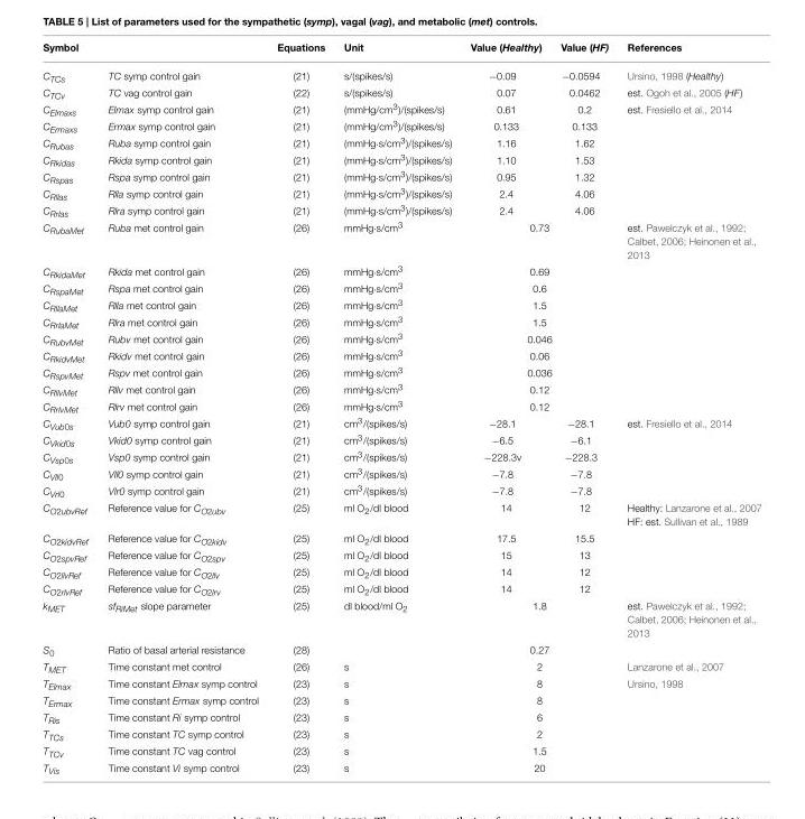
<table><thead><tr><td>Symbol</td><td></td><td>Equations</td><td>Unit</td><td>Value (Healthy)</td><td>Value (HF)</td><td>References</td></tr></thead><tbody><tr><td>CTCs</td><td>TC symp control gain</td><td>(21)</td><td>s/(spikes/s)</td><td>−0.09</td><td>−0.0594</td><td>Ursino, 1998 (Healthy)</td></tr><tr><td>CTCv</td><td>TC vag control gain</td><td>(22)</td><td>s/(spikes/s)</td><td>0.07</td><td>0.0462</td><td>est. Ogoh et al., 2005 (HF)</td></tr><tr><td>CElmaxs</td><td>Elmax symp control gain</td><td>(21)</td><td>(mmHg/cm<sup>3</sup>)/(spikes/s)</td><td>0.61</td><td>0.2</td><td>est. Fresiello et al., 2014</td></tr><tr><td>CErmaxs</td><td>Ermax symp control gain</td><td>(21)</td><td>(mmHg/cm<sup>3</sup>)/(spikes/s)</td><td>0.133</td><td>0.133</td><td></td></tr><tr><td>CRubas</td><td>Ruba symp control gain</td><td>(21)</td><td>(mmHg·s/cm<sup>3</sup>)/(spikes/s)</td><td>1.16</td><td>1.62</td><td></td></tr><tr><td>CRkidas</td><td>Rkida symp control gain</td><td>(21)</td><td>(mmHg·s/cm<sup>3</sup>)/(spikes/s)</td><td>1.10</td><td>1.53</td><td></td></tr><tr><td>CRspas</td><td>Rspa symp control gain</td><td>(21)</td><td>(mmHg·s/cm<sup>3</sup>)/(spikes/s)</td><td>0.95</td><td>1.32</td><td></td></tr><tr><td>CRllas</td><td>Rlla symp control gain</td><td>(21)</td><td>(mmHg·s/cm<sup>3</sup>)/(spikes/s)</td><td>2.4</td><td>4.06</td><td></td></tr><tr><td>CRrlas</td><td>Rlra symp control gain</td><td>(21)</td><td>(mmHg·s/cm<sup>3</sup>)/(spikes/s)</td><td>2.4</td><td>4.06</td><td></td></tr><tr><td>CRubaMet</td><td>Ruba met control gain</td><td>(26)</td><td>mmHg·s/cm<sup>3</sup></td><td colspan="2">0.73</td><td>est. Pawelczyk et al., 1992; Calbet, 2006; Heinonen et al., 2013</td></tr><tr><td>CRkidaMet</td><td>Rkida met control gain</td><td>(26)</td><td>mmHg·s/cm<sup>3</sup></td><td colspan="2">0.69</td><td></td></tr><tr><td>CRspaMet</td><td>Rspa met control gain</td><td>(26)</td><td>mmHg·s/cm<sup>3</sup></td><td colspan="2">0.6</td><td></td></tr><tr><td>CRllaMet</td><td>Rlla met control gain</td><td>(26)</td><td>mmHg·s/cm<sup>3</sup></td><td colspan="2">1.5</td><td></td></tr><tr><td>CRrlaMet</td><td>Rlra met control gain</td><td>(26)</td><td>mmHg·s/cm<sup>3</sup></td><td colspan="2">1.5</td><td></td></tr><tr><td>CRubvMet</td><td>Rubv met control gain</td><td>(26)</td><td>mmHg·s/cm<sup>3</sup></td><td colspan="2">0.046</td><td></td></tr><tr><td>CRkidvMet</td><td>Rkidv met control gain</td><td>(26)</td><td>mmHg·s/cm<sup>3</sup></td><td colspan="2">0.06</td><td></td></tr><tr><td>CRspvMet</td><td>Rspv met control gain</td><td>(26)</td><td>mmHg·s/cm<sup>3</sup></td><td colspan="2">0.036</td><td></td></tr><tr><td>CRllvMet</td><td>Rllv met control gain</td><td>(26)</td><td>mmHg·s/cm<sup>3</sup></td><td colspan="2">0.12</td><td></td></tr><tr><td>CRrlvMet</td><td>Rlrv met control gain</td><td>(26)</td><td>mmHg·s/cm<sup>3</sup></td><td colspan="2">0.12</td><td></td></tr><tr><td>CVub0s</td><td>Vub0 symp control gain</td><td>(21)</td><td>cm<sup>3</sup>/(spikes/s)</td><td>−28.1</td><td>−28.1</td><td>est. Fresiello et al., 2014</td></tr><tr><td>CVkid0s</td><td>Vkid0 symp control gain</td><td>(21)</td><td>cm<sup>3</sup>/(spikes/s)</td><td>−6.5</td><td>−6.1</td><td></td></tr><tr><td>CVsp0s</td><td>Vsp0 symp control gain</td><td>(21)</td><td>cm<sup>3</sup>/(spikes/s)</td><td>−228.3v</td><td>−228.3</td><td></td></tr><tr><td>CVll0</td><td>Vll0 symp control gain</td><td>(21)</td><td>cm<sup>3</sup>/(spikes/s)</td><td>−7.8</td><td>−7.8</td><td></td></tr><tr><td>CVrl0</td><td>Vlr0 symp control gain</td><td>(21)</td><td>cm<sup>3</sup>/(spikes/s)</td><td>−7.8</td><td>−7.8</td><td></td></tr><tr><td>CO2ubvRef</td><td>Reference value for CO2ubv</td><td>(25)</td><td>ml O<sub>2</sub>/dl blood</td><td>14</td><td>12</td><td>Healthy: Lanzarone et al., 2007 HF: est. Sullivan et al., 1989</td></tr><tr><td>CO2kidvRef</td><td>Reference value for CO2kidv</td><td>(25)</td><td>ml O<sub>2</sub>/dl blood</td><td>17.5</td><td>15.5</td><td></td></tr><tr><td>CO2spvRef</td><td>Reference value for CO2spv</td><td>(25)</td><td>ml O<sub>2</sub>/dl blood</td><td>15</td><td>13</td><td></td></tr><tr><td>CO2llvRef</td><td>Reference value for CO2llv</td><td>(25)</td><td>ml O<sub>2</sub>/dl blood</td><td>14</td><td>12</td><td></td></tr><tr><td>CO2rlvRef</td><td>Reference value for CO2lrv</td><td>(25)</td><td>ml O<sub>2</sub>/dl blood</td><td>14</td><td>12</td><td></td></tr><tr><td>kMET</td><td>sfRiMet slope parameter</td><td>(25)</td><td>dl blood/ml O<sub>2</sub></td><td colspan="2">1.8</td><td>est. Pawelczyk et al., 1992; Calbet, 2006; Heinonen et al., 2013</td></tr><tr><td>S<sub>0</sub></td><td>Ratio of basal arterial resistance</td><td>(28)</td><td></td><td colspan="2">0.27</td><td></td></tr><tr><td>TMET</td><td>Time constant met control</td><td>(26)</td><td>s</td><td colspan="2">2</td><td>Lanzarone et al., 2007</td></tr><tr><td>TElmax</td><td>Time constant Elmax symp control</td><td>(23)</td><td>s</td><td colspan="2">8</td><td>Ursino, 1998</td></tr><tr><td>TErmax</td><td>Time constant Ermax symp control</td><td>(23)</td><td>s</td><td colspan="2">8</td><td></td></tr><tr><td>TRis</td><td>Time constant Ri symp control</td><td>(23)</td><td>s</td><td colspan="2">6</td><td></td></tr><tr><td>TTCs</td><td>Time constant TC symp control</td><td>(23)</td><td>s</td><td colspan="2">2</td><td></td></tr><tr><td>TTCv</td><td>Time constant TC vag control</td><td>(23)</td><td>s</td><td colspan="2">1.5</td><td></td></tr><tr><td>TVis</td><td>Time constant Vi symp control</td><td>(23)</td><td>s</td><td colspan="2">20</td><td></td></tr></tbody></table>